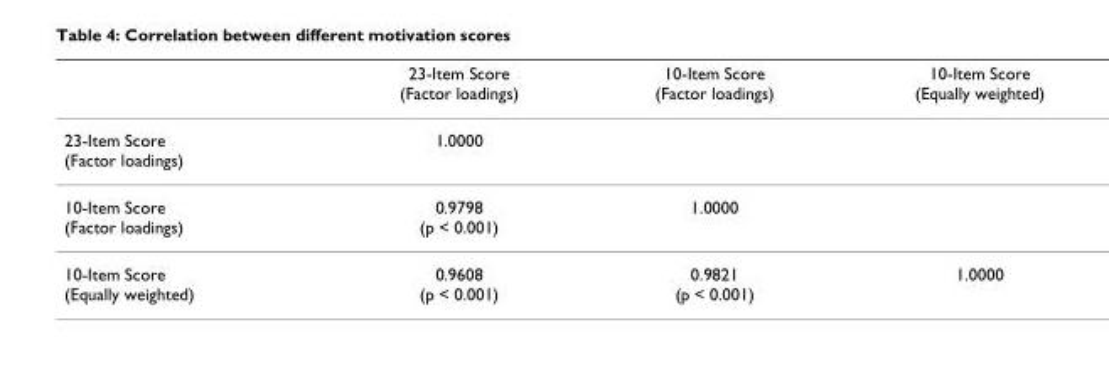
<table><thead><tr><td></td><td>23-Item Score (Factor loadings)</td><td>10-Item Score (Factor loadings)</td><td>10-Item Score (Equally weighted)</td></tr></thead><tbody><tr><td>23-Item Score (Factor loadings)</td><td>1.0000</td><td></td><td></td></tr><tr><td>10-Item Score (Factor loadings)</td><td>0.9798 (p &lt; 0.001)</td><td>1.0000</td><td></td></tr><tr><td>10-Item Score (Equally weighted)</td><td>0.9608 (p &lt; 0.001)</td><td>0.9821 (p &lt; 0.001)</td><td>1.0000</td></tr></tbody></table>